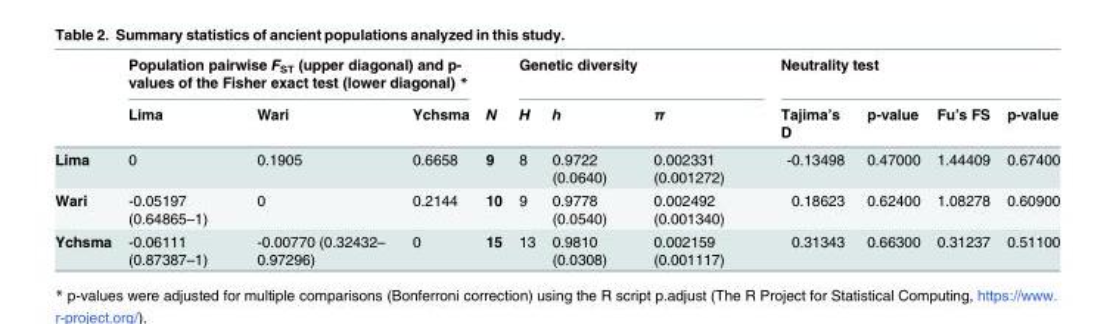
<table><thead><tr><td rowspan="2"></td><td colspan="3">Population pairwise F<sub>ST</sub> (upper diagonal) and p- values of the Fisher exact test (lower diagonal) *</td><td rowspan="2">N</td><td colspan="3">Genetic diversity</td><td colspan="4">Neutrality test</td></tr><tr><td>Lima</td><td>Wari</td><td>Ychsma</td><td>H</td><td>h</td><td>π</td><td>Tajima’s D</td><td>p-value</td><td>Fu’s FS</td><td>p-value</td></tr></thead><tbody><tr><td>Lima</td><td>0</td><td>0.1905</td><td>0.6658</td><td>9</td><td>8</td><td>0.9722 (0.0640)</td><td>0.002331 (0.001272)</td><td>-0.13498</td><td>0.47000</td><td>1.44409</td><td>0.67400</td></tr><tr><td>Wari</td><td>-0.05197 (0.64865–1)</td><td>0</td><td>0.2144</td><td>10</td><td>9</td><td>0.9778 (0.0540)</td><td>0.002492 (0.001340)</td><td>0.18623</td><td>0.62400</td><td>1.08278</td><td>0.60900</td></tr><tr><td>Ychsma</td><td>-0.06111 (0.87387–1)</td><td>-0.00770 (0.32432– 0.97296)</td><td>0</td><td>15</td><td>13</td><td>0.9810 (0.0308)</td><td>0.002159 (0.001117)</td><td>0.31343</td><td>0.66300</td><td>0.31237</td><td>0.51100</td></tr></tbody></table>